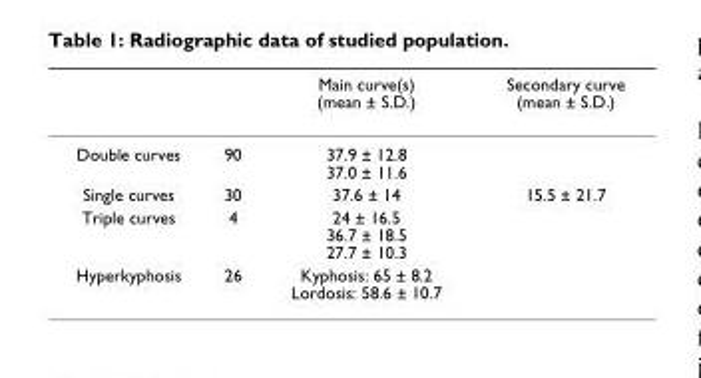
<table><thead><tr><td></td><td></td><td>Main curve(s) (mean ± S.D.)</td><td>Secondary curve (mean ± S.D.)</td></tr></thead><tbody><tr><td>Double curves</td><td>90</td><td>37.9 ± 12.8 37.0 ± 11.6</td><td></td></tr><tr><td>Single curves</td><td>30</td><td>37.6 ± 14</td><td>15.5 ± 21.7</td></tr><tr><td>Triple curves</td><td>4</td><td>24 ± 16.5 36.7 ± 18.5 27.7 ± 10.3</td><td></td></tr><tr><td>Hyperkyphosis</td><td>26</td><td>Kyphosis: 65 ± 8.2 Lordosis: 58.6 ± 10.7</td><td></td></tr></tbody></table>